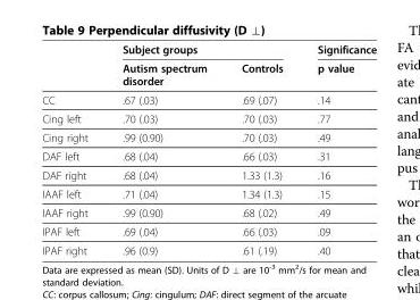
<table><thead><tr><td rowspan="2"></td><td colspan="2">Subject groups</td><td rowspan="2">Significance p value</td></tr><tr><td>Autism spectrum disorder</td><td>Controls</td></tr></thead><tbody><tr><td>CC</td><td>.67 (.03)</td><td>.69 (.07)</td><td>.14</td></tr><tr><td>Cing left</td><td>.70 (.03)</td><td>.70 (.03)</td><td>.77</td></tr><tr><td>Cing right</td><td>.99 (0.90)</td><td>.70 (.03)</td><td>.49</td></tr><tr><td>DAF left</td><td>.68 (.04)</td><td>.66 (.03)</td><td>.31</td></tr><tr><td>DAF right</td><td>.68 (.04)</td><td>1.33 (1.3)</td><td>.16</td></tr><tr><td>IAAF left</td><td>.71 (.04)</td><td>1.34 (1.3)</td><td>.15</td></tr><tr><td>IAAF right</td><td>.99 (0.90)</td><td>.68 (.02)</td><td>.49</td></tr><tr><td>IPAF left</td><td>.69 (.04)</td><td>.66 (.03)</td><td>.09</td></tr><tr><td>IPAF right</td><td>.96 (0.9)</td><td>.61 (.19)</td><td>.40</td></tr></tbody></table>